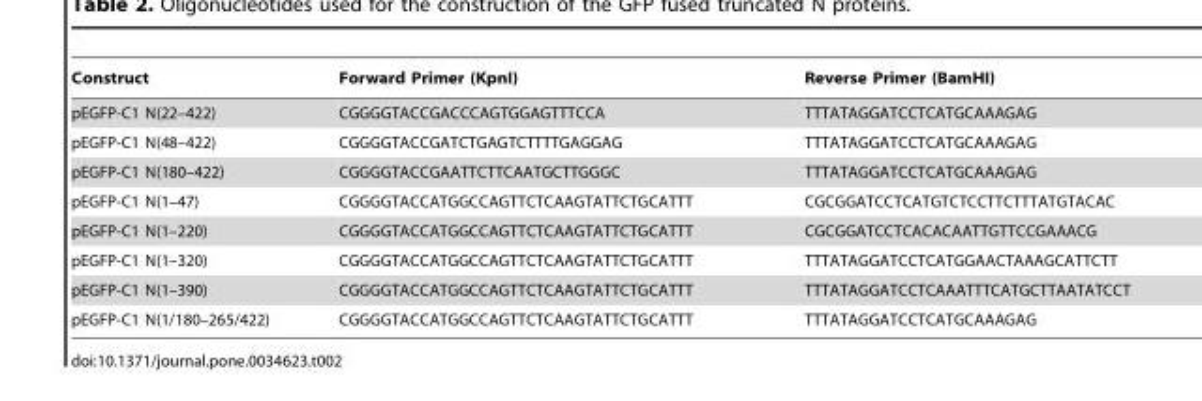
<table><thead><tr><td>Construct</td><td>Forward Primer (KpnI)</td><td>Reverse Primer (BamHI)</td></tr></thead><tbody><tr><td>pEGFP-C1 N(22–422)</td><td>CGGGGTACCGACCCAGTGGAGTTTCCA</td><td>TTTATAGGATCCTCATGCAAAGAG</td></tr><tr><td>pEGFP-C1 N(48–422)</td><td>CGGGGTACCGATCTGAGTCTTTTGAGGAG</td><td>TTTATAGGATCCTCATGCAAAGAG</td></tr><tr><td>pEGFP-C1 N(180–422)</td><td>CGGGGTACCGAATTCTTCAATGCTTGGGC</td><td>TTTATAGGATCCTCATGCAAAGAG</td></tr><tr><td>pEGFP-C1 N(1–47)</td><td>CGGGGTACCATGGCCAGTTCTCAAGTATTCTGCATTT</td><td>CGCGGATCCTCATGTCTCCTTCTTTATGTACAC</td></tr><tr><td>pEGFP-C1 N(1–220)</td><td>CGGGGTACCATGGCCAGTTCTCAAGTATTCTGCATTT</td><td>CGCGGATCCTCACACAATTGTTCCGAAACG</td></tr><tr><td>pEGFP-C1 N(1–320)</td><td>CGGGGTACCATGGCCAGTTCTCAAGTATTCTGCATTT</td><td>TTTATAGGATCCTCATGGAACTAAAGCATTCTT</td></tr><tr><td>pEGFP-C1 N(1–390)</td><td>CGGGGTACCATGGCCAGTTCTCAAGTATTCTGCATTT</td><td>TTTATAGGATCCTCAAATTTCATGCTTAATATCCT</td></tr><tr><td>pEGFP-C1 N(1/180–265/422)</td><td>CGGGGTACCATGGCCAGTTCTCAAGTATTCTGCATTT</td><td>TTTATAGGATCCTCATGCAAAGAG</td></tr></tbody></table>